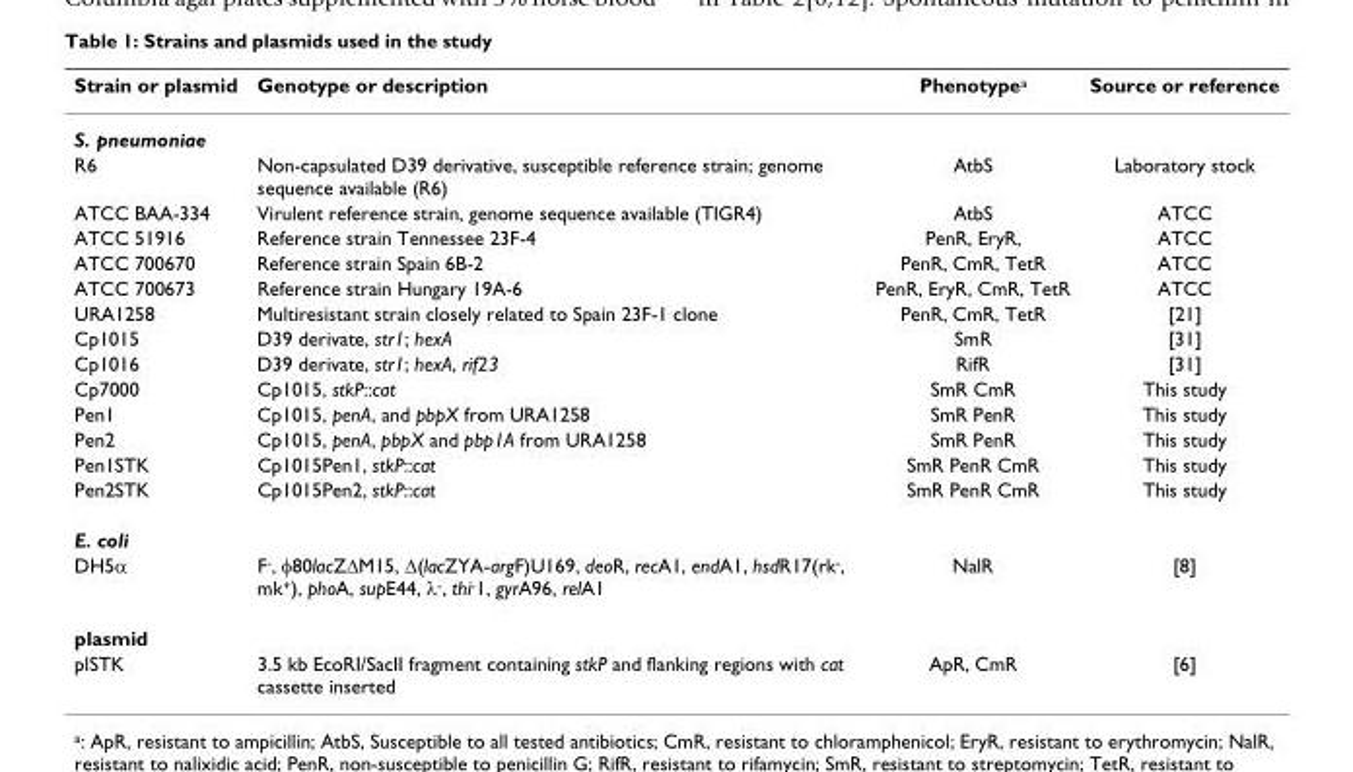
<table><thead><tr><td>Strain or plasmid</td><td>Genotype or description</td><td>Phenotype<sup>a</sup></td><td>Source or reference</td></tr></thead><tbody><tr><td colspan="4">S. pneumoniae</td></tr><tr><td>R6</td><td>Non-capsulated D39 derivative, susceptible reference strain; genome sequence available (R6)</td><td>AtbS</td><td>Laboratory stock</td></tr><tr><td>ATCC BAA-334</td><td>Virulent reference strain, genome sequence available (TIGR4)</td><td>AtbS</td><td>ATCC</td></tr><tr><td>ATCC 51916</td><td>Reference strain Tennessee 23F-4</td><td>PenR, EryR,</td><td>ATCC</td></tr><tr><td>ATCC 700670</td><td>Reference strain Spain 6B-2</td><td>PenR, CmR, TetR</td><td>ATCC</td></tr><tr><td>ATCC 700673</td><td>Reference strain Hungary 19A-6</td><td>PenR, EryR, CmR, TetR</td><td>ATCC</td></tr><tr><td>URA1258</td><td>Multiresistant strain closely related to Spain 23F-1 clone</td><td>PenR, CmR, TetR</td><td>[21]</td></tr><tr><td>Cp1015</td><td>D39 derivate, str1; hexA</td><td>SmR</td><td>[31]</td></tr><tr><td>Cp1016</td><td>D39 derivate, str1; hexA, rif23</td><td>RifR</td><td>[31]</td></tr><tr><td>Cp7000</td><td>Cp1015, stkP::cat</td><td>SmR CmR</td><td>This study</td></tr><tr><td>Pen1</td><td>Cp1015, penA, and pbpX from URA1258</td><td>SmR PenR</td><td>This study</td></tr><tr><td>Pen2</td><td>Cp1015, penA, pbpX and pbp1A from URA1258</td><td>SmR PenR</td><td>This study</td></tr><tr><td>Pen1STK</td><td>Cp1015Pen1, stkP::cat</td><td>SmR PenR CmR</td><td>This study</td></tr><tr><td>Pen2STK</td><td>Cp1015Pen2, stkP::cat</td><td>SmR PenR CmR</td><td>This study</td></tr><tr><td colspan="4">E. coli</td></tr><tr><td>DH5α</td><td>F<sup>-</sup>, φ80lacZΔM15, Δ(lacZYA-argF)U169, deoR, recA1, endA1, hsdR17(rk<sup>-</sup>, mk<sup>+</sup>), phoA, supE44, λ<sup>-</sup>, thi<sup>-</sup>1, gyrA96, relA1</td><td>NalR</td><td>[8]</td></tr><tr><td colspan="4">plasmid</td></tr><tr><td>plSTK</td><td>3.5 kb EcoRI/SacII fragment containing stkP and flanking regions with cat cassette inserted</td><td>ApR, CmR</td><td>[6]</td></tr></tbody></table>